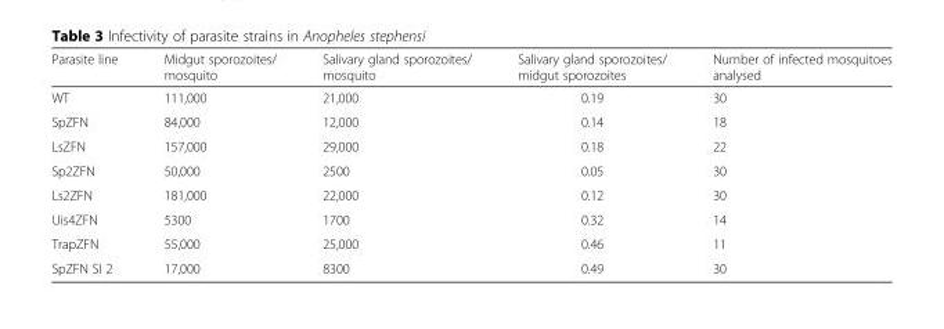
<table><thead><tr><td>Parasite line</td><td>Midgut sporozoites/ mosquito</td><td>Salivary gland sporozoites/ mosquito</td><td>Salivary gland sporozoites/ midgut sporozoites</td><td>Number of infected mosquitoes analysed</td></tr></thead><tbody><tr><td>WT</td><td>111,000</td><td>21,000</td><td>0.19</td><td>30</td></tr><tr><td>SpZFN</td><td>84,000</td><td>12,000</td><td>0.14</td><td>18</td></tr><tr><td>LsZFN</td><td>157,000</td><td>29,000</td><td>0.18</td><td>22</td></tr><tr><td>Sp2ZFN</td><td>50,000</td><td>2500</td><td>0.05</td><td>30</td></tr><tr><td>Ls2ZFN</td><td>181,000</td><td>22,000</td><td>0.12</td><td>30</td></tr><tr><td>Uis4ZFN</td><td>5300</td><td>1700</td><td>0.32</td><td>14</td></tr><tr><td>TrapZFN</td><td>55,000</td><td>25,000</td><td>0.46</td><td>11</td></tr><tr><td>SpZFN SI 2</td><td>17,000</td><td>8300</td><td>0.49</td><td>30</td></tr></tbody></table>